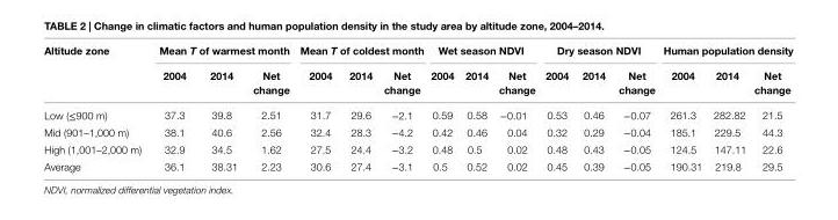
<table><thead><tr><td rowspan="2">altitude zone</td><td colspan="3">Mean T of warmest month</td><td colspan="3">Mean T of coldest month</td><td colspan="3">Wet season nDVi</td><td colspan="3">Dry season nDVi</td><td colspan="3">human population density</td></tr><tr><td>2004</td><td>2014</td><td>net change</td><td>2004</td><td>2014</td><td>net change</td><td>2004</td><td>2014</td><td>net change</td><td>2004</td><td>2014</td><td>net change</td><td>2004</td><td>2014</td><td>net change</td></tr></thead><tbody><tr><td>Low (≤900 m)</td><td>37.3</td><td>39.8</td><td>2.51</td><td>31.7</td><td>29.6</td><td>−2.1</td><td>0.59</td><td>0.58</td><td>−0.01</td><td>0.53</td><td>0.46</td><td>−0.07</td><td>261.3</td><td>282.82</td><td>21.5</td></tr><tr><td>Mid (901–1,000 m)</td><td>38.1</td><td>40.6</td><td>2.56</td><td>32.4</td><td>28.3</td><td>−4.2</td><td>0.42</td><td>0.46</td><td>0.04</td><td>0.32</td><td>0.29</td><td>−0.04</td><td>185.1</td><td>229.5</td><td>44.3</td></tr><tr><td>High (1,001–2,000 m)</td><td>32.9</td><td>34.5</td><td>1.62</td><td>27.5</td><td>24.4</td><td>−3.2</td><td>0.48</td><td>0.5</td><td>0.02</td><td>0.48</td><td>0.43</td><td>−0.05</td><td>124.5</td><td>147.11</td><td>22.6</td></tr><tr><td>Average</td><td>36.1</td><td>38.31</td><td>2.23</td><td>30.6</td><td>27.4</td><td>−3.1</td><td>0.5</td><td>0.52</td><td>0.02</td><td>0.45</td><td>0.39</td><td>−0.05</td><td>190.31</td><td>219.8</td><td>29.5</td></tr></tbody></table>